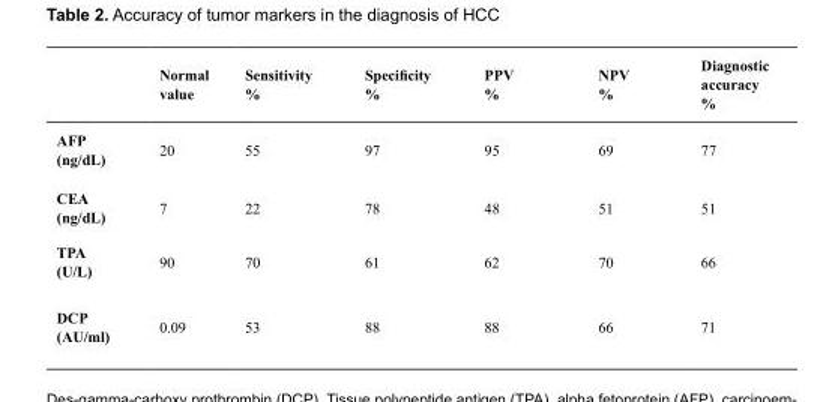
<table><thead><tr><td></td><td>Normal value</td><td>Sensitivity %</td><td>Specificity %</td><td>PPV %</td><td>NPV %</td><td>Diagnostic accuracy %</td></tr></thead><tbody><tr><td>AFP (ng/dL)</td><td>20</td><td>55</td><td>97</td><td>95</td><td>69</td><td>77</td></tr><tr><td>CEA (ng/dL)</td><td>7</td><td>22</td><td>78</td><td>48</td><td>51</td><td>51</td></tr><tr><td>TPA (U/L)</td><td>90</td><td>70</td><td>61</td><td>62</td><td>70</td><td>66</td></tr><tr><td>DCP (AU/ml)</td><td>0.09</td><td>53</td><td>88</td><td>88</td><td>66</td><td>71</td></tr></tbody></table>